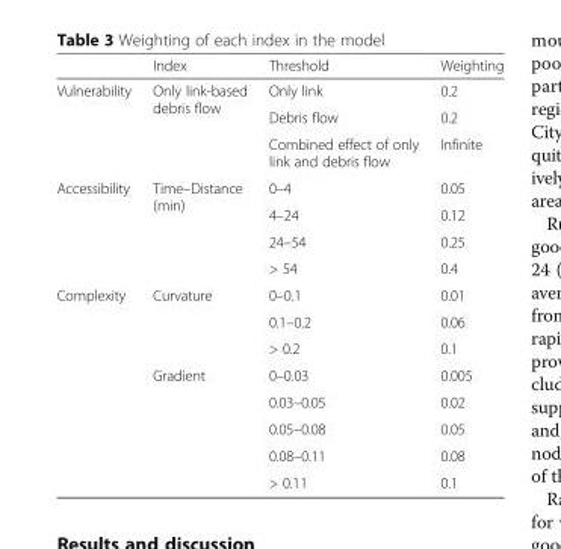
<table><thead><tr><td></td><td>Index</td><td>Threshold</td><td>Weighting</td></tr></thead><tbody><tr><td rowspan="3">Vulnerability</td><td rowspan="3">Only link-based debris flow</td><td>Only link</td><td>0.2</td></tr><tr><td>Debris flow</td><td>0.2</td></tr><tr><td>Combined effect of only link and debris flow</td><td>Infinite</td></tr><tr><td rowspan="4">Accessibility</td><td rowspan="4">Time–Distance (min)</td><td>0–4</td><td>0.05</td></tr><tr><td>4–24</td><td>0.12</td></tr><tr><td>24–54</td><td>0.25</td></tr><tr><td>&gt; 54</td><td>0.4</td></tr><tr><td rowspan="8">Complexity</td><td rowspan="3">Curvature</td><td>0–0.1</td><td>0.01</td></tr><tr><td>0.1–0.2</td><td>0.06</td></tr><tr><td>&gt; 0.2</td><td>0.1</td></tr><tr><td rowspan="5">Gradient</td><td>0–0.03</td><td>0.005</td></tr><tr><td>0.03–0.05</td><td>0.02</td></tr><tr><td>0.05–0.08</td><td>0.05</td></tr><tr><td>0.08–0.11</td><td>0.08</td></tr><tr><td>&gt; 0.11</td><td>0.1</td></tr></tbody></table>